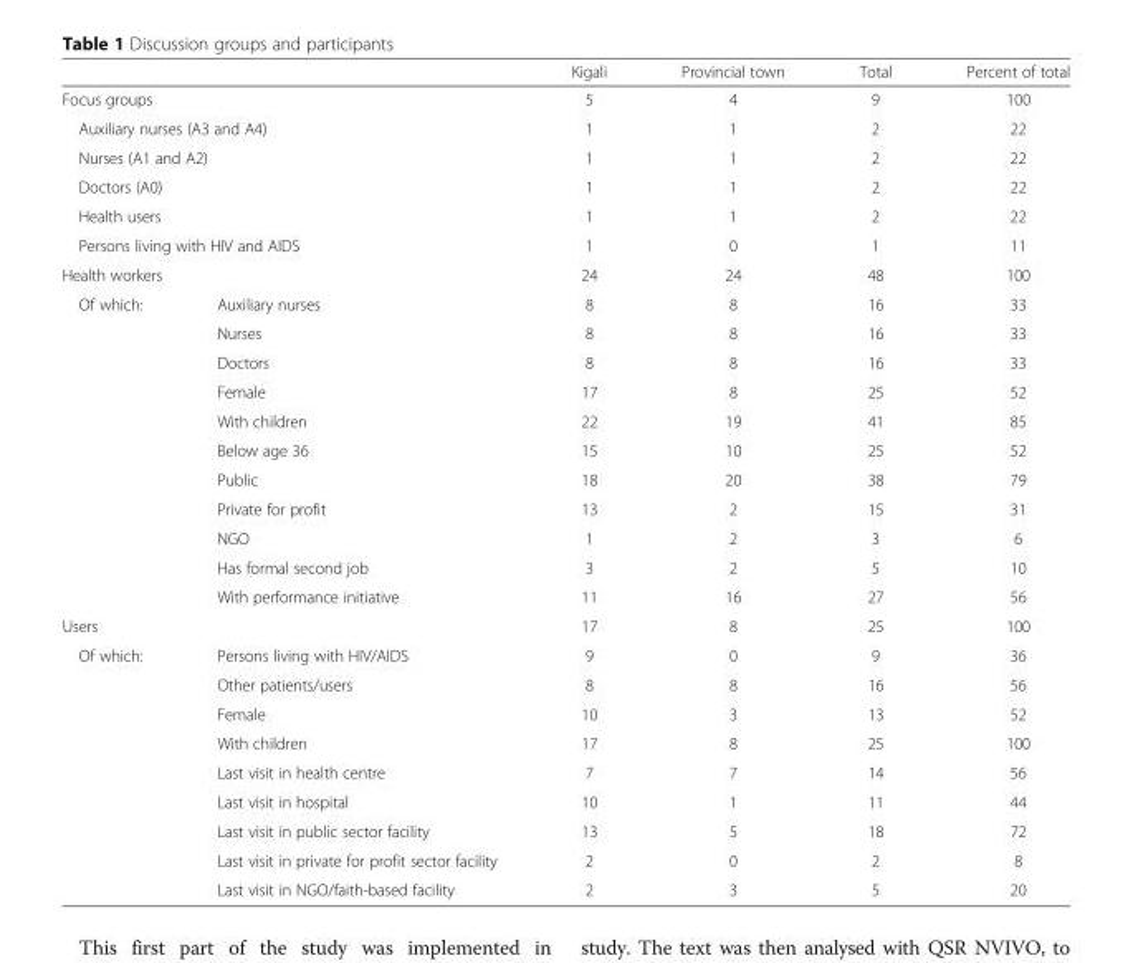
<table><thead><tr><td></td><td></td><td>Kigali</td><td>Provincial town</td><td>Total</td><td>Percent of total</td></tr></thead><tbody><tr><td colspan="2">Focus groups</td><td>5</td><td>4</td><td>9</td><td>100</td></tr><tr><td colspan="2">Auxiliary nurses (A3 and A4)</td><td>1</td><td>1</td><td>2</td><td>22</td></tr><tr><td colspan="2">Nurses (A1 and A2)</td><td>1</td><td>1</td><td>2</td><td>22</td></tr><tr><td colspan="2">Doctors (A0)</td><td>1</td><td>1</td><td>2</td><td>22</td></tr><tr><td colspan="2">Health users</td><td>1</td><td>1</td><td>2</td><td>22</td></tr><tr><td colspan="2">Persons living with HIV and AIDS</td><td>1</td><td>0</td><td>1</td><td>11</td></tr><tr><td colspan="2">Health workers</td><td>24</td><td>24</td><td>48</td><td>100</td></tr><tr><td rowspan="11">Of which:</td><td>Auxiliary nurses</td><td>8</td><td>8</td><td>16</td><td>33</td></tr><tr><td>Nurses</td><td>8</td><td>8</td><td>16</td><td>33</td></tr><tr><td>Doctors</td><td>8</td><td>8</td><td>16</td><td>33</td></tr><tr><td>Female</td><td>17</td><td>8</td><td>25</td><td>52</td></tr><tr><td>With children</td><td>22</td><td>19</td><td>41</td><td>85</td></tr><tr><td>Below age 36</td><td>15</td><td>10</td><td>25</td><td>52</td></tr><tr><td>Public</td><td>18</td><td>20</td><td>38</td><td>79</td></tr><tr><td>Private for profit</td><td>13</td><td>2</td><td>15</td><td>31</td></tr><tr><td>NGO</td><td>1</td><td>2</td><td>3</td><td>6</td></tr><tr><td>Has formal second job</td><td>3</td><td>2</td><td>5</td><td>10</td></tr><tr><td>With performance initiative</td><td>11</td><td>16</td><td>27</td><td>56</td></tr><tr><td colspan="2">Users</td><td>17</td><td>8</td><td>25</td><td>100</td></tr><tr><td rowspan="9">Of which:</td><td>Persons living with HIV/AIDS</td><td>9</td><td>0</td><td>9</td><td>36</td></tr><tr><td>Other patients/users</td><td>8</td><td>8</td><td>16</td><td>56</td></tr><tr><td>Female</td><td>10</td><td>3</td><td>13</td><td>52</td></tr><tr><td>With children</td><td>17</td><td>8</td><td>25</td><td>100</td></tr><tr><td>Last visit in health centre</td><td>7</td><td>7</td><td>14</td><td>56</td></tr><tr><td>Last visit in hospital</td><td>10</td><td>1</td><td>11</td><td>44</td></tr><tr><td>Last visit in public sector facility</td><td>13</td><td>5</td><td>18</td><td>72</td></tr><tr><td>Last visit in private for profit sector facility</td><td>2</td><td>0</td><td>2</td><td>8</td></tr><tr><td>Last visit in NGO/faith-based facility</td><td>2</td><td>3</td><td>5</td><td>20</td></tr></tbody></table>